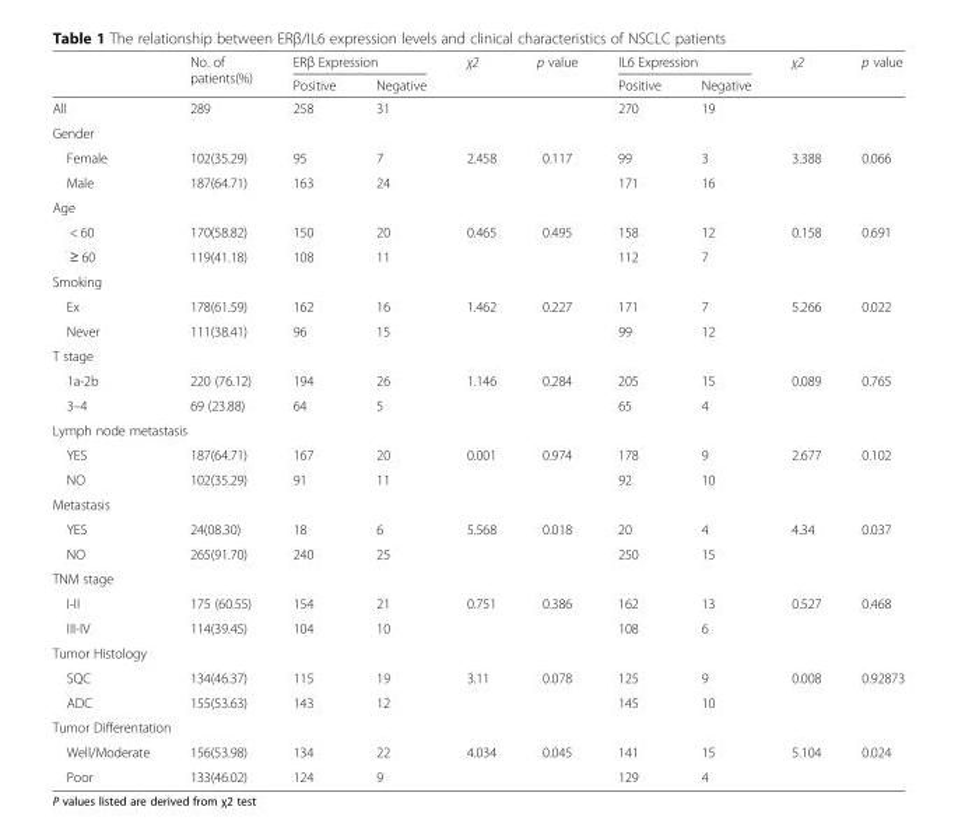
<table><thead><tr><td rowspan="2"></td><td rowspan="2">No. of patients(%)</td><td colspan="2">ERβ Expression</td><td rowspan="2">χ2</td><td rowspan="2">p value</td><td colspan="2">IL6 Expression</td><td rowspan="2">χ2</td><td rowspan="2">p value</td></tr><tr><td>Positive</td><td>Negative</td><td>Positive</td><td>Negative</td></tr></thead><tbody><tr><td>All</td><td>289</td><td>258</td><td>31</td><td></td><td></td><td>270</td><td>19</td><td></td><td></td></tr><tr><td colspan="10">Gender</td></tr><tr><td>Female</td><td>102(35.29)</td><td>95</td><td>7</td><td>2.458</td><td>0.117</td><td>99</td><td>3</td><td>3.388</td><td>0.066</td></tr><tr><td>Male</td><td>187(64.71)</td><td>163</td><td>24</td><td></td><td></td><td>171</td><td>16</td><td></td><td></td></tr><tr><td colspan="10">Age</td></tr><tr><td>&lt; 60</td><td>170(58.82)</td><td>150</td><td>20</td><td>0.465</td><td>0.495</td><td>158</td><td>12</td><td>0.158</td><td>0.691</td></tr><tr><td>≥ 60</td><td>119(41.18)</td><td>108</td><td>11</td><td></td><td></td><td>112</td><td>7</td><td></td><td></td></tr><tr><td colspan="10">Smoking</td></tr><tr><td>Ex</td><td>178(61.59)</td><td>162</td><td>16</td><td>1.462</td><td>0.227</td><td>171</td><td>7</td><td>5.266</td><td>0.022</td></tr><tr><td>Never</td><td>111(38.41)</td><td>96</td><td>15</td><td></td><td></td><td>99</td><td>12</td><td></td><td></td></tr><tr><td colspan="10">T stage</td></tr><tr><td>1a-2b</td><td>220 (76.12)</td><td>194</td><td>26</td><td>1.146</td><td>0.284</td><td>205</td><td>15</td><td>0.089</td><td>0.765</td></tr><tr><td>3–4</td><td>69 (23.88)</td><td>64</td><td>5</td><td></td><td></td><td>65</td><td>4</td><td></td><td></td></tr><tr><td colspan="10">Lymph node metastasis</td></tr><tr><td>YES</td><td>187(64.71)</td><td>167</td><td>20</td><td>0.001</td><td>0.974</td><td>178</td><td>9</td><td>2.677</td><td>0.102</td></tr><tr><td>NO</td><td>102(35.29)</td><td>91</td><td>11</td><td></td><td></td><td>92</td><td>10</td><td></td><td></td></tr><tr><td colspan="10">Metastasis</td></tr><tr><td>YES</td><td>24(08.30)</td><td>18</td><td>6</td><td>5.568</td><td>0.018</td><td>20</td><td>4</td><td>4.34</td><td>0.037</td></tr><tr><td>NO</td><td>265(91.70)</td><td>240</td><td>25</td><td></td><td></td><td>250</td><td>15</td><td></td><td></td></tr><tr><td colspan="10">TNM stage</td></tr><tr><td>I-II</td><td>175 (60.55)</td><td>154</td><td>21</td><td>0.751</td><td>0.386</td><td>162</td><td>13</td><td>0.527</td><td>0.468</td></tr><tr><td>III-IV</td><td>114(39.45)</td><td>104</td><td>10</td><td></td><td></td><td>108</td><td>6</td><td></td><td></td></tr><tr><td colspan="10">Tumor Histology</td></tr><tr><td>SQC</td><td>134(46.37)</td><td>115</td><td>19</td><td>3.11</td><td>0.078</td><td>125</td><td>9</td><td>0.008</td><td>0.92873</td></tr><tr><td>ADC</td><td>155(53.63)</td><td>143</td><td>12</td><td></td><td></td><td>145</td><td>10</td><td></td><td></td></tr><tr><td colspan="10">Tumor Differentation</td></tr><tr><td>Well/Moderate</td><td>156(53.98)</td><td>134</td><td>22</td><td>4.034</td><td>0.045</td><td>141</td><td>15</td><td>5.104</td><td>0.024</td></tr><tr><td>Poor</td><td>133(46.02)</td><td>124</td><td>9</td><td></td><td></td><td>129</td><td>4</td><td></td><td></td></tr></tbody></table>